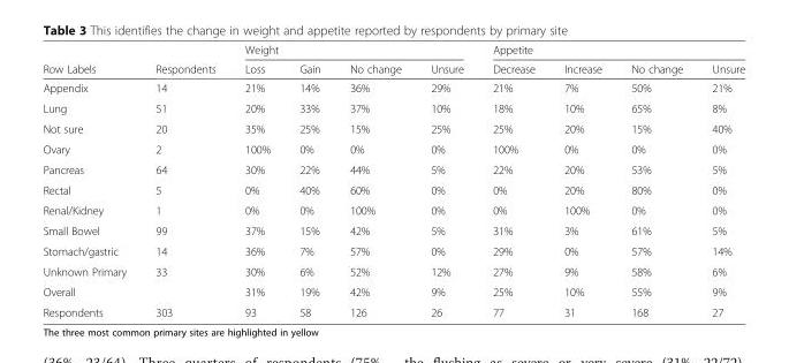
<table><thead><tr><td rowspan="2">Row Labels</td><td rowspan="2">Respondents</td><td colspan="4">Weight</td><td colspan="4">Appetite</td></tr><tr><td>Loss</td><td>Gain</td><td>No change</td><td>Unsure</td><td>Decrease</td><td>Increase</td><td>No change</td><td>Unsure</td></tr></thead><tbody><tr><td>Appendix</td><td>14</td><td>21%</td><td>14%</td><td>36%</td><td>29%</td><td>21%</td><td>7%</td><td>50%</td><td>21%</td></tr><tr><td>Lung</td><td>51</td><td>20%</td><td>33%</td><td>37%</td><td>10%</td><td>18%</td><td>10%</td><td>65%</td><td>8%</td></tr><tr><td>Not sure</td><td>20</td><td>35%</td><td>25%</td><td>15%</td><td>25%</td><td>25%</td><td>20%</td><td>15%</td><td>40%</td></tr><tr><td>Ovary</td><td>2</td><td>100%</td><td>0%</td><td>0%</td><td>0%</td><td>100%</td><td>0%</td><td>0%</td><td>0%</td></tr><tr><td>Pancreas</td><td>64</td><td>30%</td><td>22%</td><td>44%</td><td>5%</td><td>22%</td><td>20%</td><td>53%</td><td>5%</td></tr><tr><td>Rectal</td><td>5</td><td>0%</td><td>40%</td><td>60%</td><td>0%</td><td>0%</td><td>20%</td><td>80%</td><td>0%</td></tr><tr><td>Renal/Kidney</td><td>1</td><td>0%</td><td>0%</td><td>100%</td><td>0%</td><td>0%</td><td>100%</td><td>0%</td><td>0%</td></tr><tr><td>Small Bowel</td><td>99</td><td>37%</td><td>15%</td><td>42%</td><td>5%</td><td>31%</td><td>3%</td><td>61%</td><td>5%</td></tr><tr><td>Stomach/gastric</td><td>14</td><td>36%</td><td>7%</td><td>57%</td><td>0%</td><td>29%</td><td>0%</td><td>57%</td><td>14%</td></tr><tr><td>Unknown Primary</td><td>33</td><td>30%</td><td>6%</td><td>52%</td><td>12%</td><td>27%</td><td>9%</td><td>58%</td><td>6%</td></tr><tr><td>Overall</td><td></td><td>31%</td><td>19%</td><td>42%</td><td>9%</td><td>25%</td><td>10%</td><td>55%</td><td>9%</td></tr><tr><td>Respondents</td><td>303</td><td>93</td><td>58</td><td>126</td><td>26</td><td>77</td><td>31</td><td>168</td><td>27</td></tr></tbody></table>